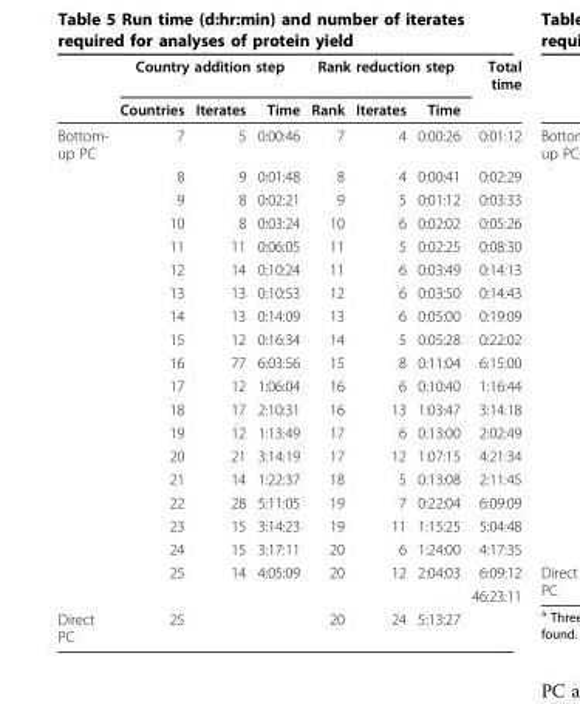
<table><thead><tr><td rowspan="2"></td><td colspan="3">Country addition step</td><td colspan="3">Rank reduction step</td><td rowspan="2">Total time</td></tr><tr><td>Countries</td><td>Iterates</td><td>Time</td><td>Rank</td><td>Iterates</td><td>Time</td></tr></thead><tbody><tr><td rowspan="20">Bottom- up PC</td><td>7</td><td>5</td><td>0:00:46</td><td>7</td><td>4</td><td>0:00:26</td><td>0:01:12</td></tr><tr><td>8</td><td>9</td><td>0:01:48</td><td>8</td><td>4</td><td>0:00:41</td><td>0:02:29</td></tr><tr><td>9</td><td>8</td><td>0:02:21</td><td>9</td><td>5</td><td>0:01:12</td><td>0:03:33</td></tr><tr><td>10</td><td>8</td><td>0:03:24</td><td>10</td><td>6</td><td>0:02:02</td><td>0:05:26</td></tr><tr><td>11</td><td>11</td><td>0:06:05</td><td>11</td><td>5</td><td>0:02:25</td><td>0:08:30</td></tr><tr><td>12</td><td>14</td><td>0:10:24</td><td>11</td><td>6</td><td>0:03:49</td><td>0:14:13</td></tr><tr><td>13</td><td>13</td><td>0:10:53</td><td>12</td><td>6</td><td>0:03:50</td><td>0:14:43</td></tr><tr><td>14</td><td>13</td><td>0:14:09</td><td>13</td><td>6</td><td>0:05:00</td><td>0:19:09</td></tr><tr><td>15</td><td>12</td><td>0:16:34</td><td>14</td><td>5</td><td>0:05:28</td><td>0:22:02</td></tr><tr><td>16</td><td>77</td><td>6:03:56</td><td>15</td><td>8</td><td>0:11:04</td><td>6:15:00</td></tr><tr><td>17</td><td>12</td><td>1:06:04</td><td>16</td><td>6</td><td>0:10:40</td><td>1:16:44</td></tr><tr><td>18</td><td>17</td><td>2:10:31</td><td>16</td><td>13</td><td>1:03:47</td><td>3:14:18</td></tr><tr><td>19</td><td>12</td><td>1:13:49</td><td>17</td><td>6</td><td>0:13:00</td><td>2:02:49</td></tr><tr><td>20</td><td>21</td><td>3:14:19</td><td>17</td><td>12</td><td>1:07:15</td><td>4:21:34</td></tr><tr><td>21</td><td>14</td><td>1:22:37</td><td>18</td><td>5</td><td>0:13:08</td><td>2:11:45</td></tr><tr><td>22</td><td>28</td><td>5:11:05</td><td>19</td><td>7</td><td>0:22:04</td><td>6:09:09</td></tr><tr><td>23</td><td>15</td><td>3:14:23</td><td>19</td><td>11</td><td>1:15:25</td><td>5:04:48</td></tr><tr><td>24</td><td>15</td><td>3:17:11</td><td>20</td><td>6</td><td>1:24:00</td><td>4:17:35</td></tr><tr><td>25</td><td>14</td><td>4:05:09</td><td>20</td><td>12</td><td>2:04:03</td><td>6:09:12</td></tr><tr><td></td><td></td><td></td><td></td><td></td><td></td><td>46:23:11</td></tr><tr><td>Direct PC</td><td>25</td><td></td><td></td><td>20</td><td>24</td><td>5:13:27</td><td></td></tr></tbody></table>